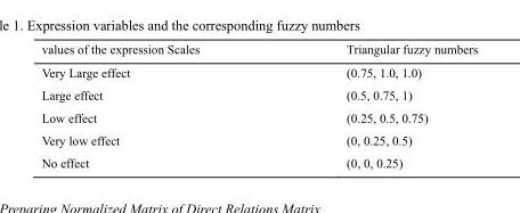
<table><thead><tr><td>values of the expression Scales</td><td>Triangular fuzzy numbers</td></tr></thead><tbody><tr><td>Very Large effect</td><td>(0.75, 1.0, 1.0)</td></tr><tr><td>Large effect</td><td>(0.5, 0.75, 1)</td></tr><tr><td>Low effect</td><td>(0.25, 0.5, 0.75)</td></tr><tr><td>Very low effect</td><td>(0, 0.25, 0.5)</td></tr><tr><td>No effect</td><td>(0, 0, 0.25)</td></tr></tbody></table>